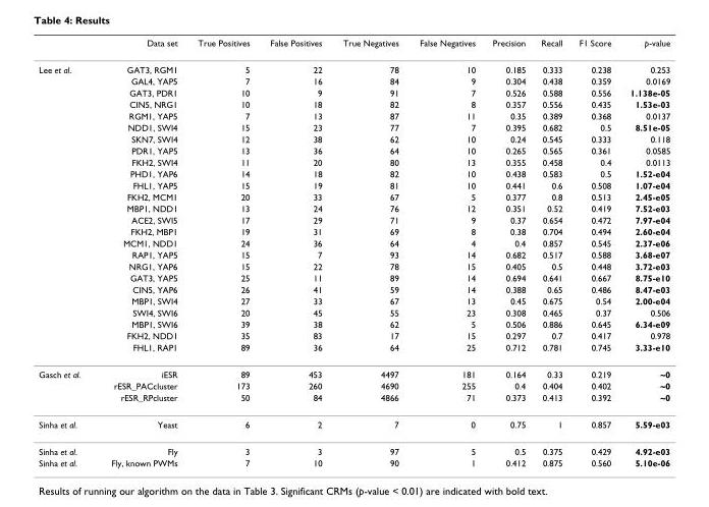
<table><thead><tr><td></td><td>Data set</td><td>True Positives</td><td>False Positives</td><td>True Negatives</td><td>False Negatives</td><td>Precision</td><td>Recall</td><td>F1 Score</td><td>p-value</td></tr></thead><tbody><tr><td rowspan="25">Lee et al.</td><td>GAT3, RGM1</td><td>5</td><td>22</td><td>78</td><td>10</td><td>0.185</td><td>0.333</td><td>0.238</td><td>0.253</td></tr><tr><td>GAL4, YAP5</td><td>7</td><td>16</td><td>84</td><td>9</td><td>0.304</td><td>0.438</td><td>0.359</td><td>0.0169</td></tr><tr><td>GAT3, PDR1</td><td>10</td><td>9</td><td>91</td><td>7</td><td>0.526</td><td>0.588</td><td>0.556</td><td>1.138e-05</td></tr><tr><td>CIN5, NRG1</td><td>10</td><td>18</td><td>82</td><td>8</td><td>0.357</td><td>0.556</td><td>0.435</td><td>1.53e-03</td></tr><tr><td>RGM1, YAP5</td><td>7</td><td>13</td><td>87</td><td>11</td><td>0.35</td><td>0.389</td><td>0.368</td><td>0.0137</td></tr><tr><td>NDD1, SWI4</td><td>15</td><td>23</td><td>77</td><td>7</td><td>0.395</td><td>0.682</td><td>0.5</td><td>8.51e-05</td></tr><tr><td>SKN7, SWI4</td><td>12</td><td>38</td><td>62</td><td>10</td><td>0.24</td><td>0.545</td><td>0.333</td><td>0.118</td></tr><tr><td>PDR1, YAP5</td><td>13</td><td>36</td><td>64</td><td>10</td><td>0.265</td><td>0.565</td><td>0.361</td><td>0.0585</td></tr><tr><td>FKH2, SWI4</td><td>11</td><td>20</td><td>80</td><td>13</td><td>0.355</td><td>0.458</td><td>0.4</td><td>0.0113</td></tr><tr><td>PHD1, YAP6</td><td>14</td><td>18</td><td>82</td><td>10</td><td>0.438</td><td>0.583</td><td>0.5</td><td>1.52-e04</td></tr><tr><td>FHL1, YAP5</td><td>15</td><td>19</td><td>81</td><td>10</td><td>0.441</td><td>0.6</td><td>0.508</td><td>1.07-e04</td></tr><tr><td>FKH2, MCM1</td><td>20</td><td>33</td><td>67</td><td>5</td><td>0.377</td><td>0.8</td><td>0.513</td><td>2.45-e05</td></tr><tr><td>MBP1, NDD1</td><td>13</td><td>24</td><td>76</td><td>12</td><td>0.351</td><td>0.52</td><td>0.419</td><td>7.52-e03</td></tr><tr><td>ACE2, SWI5</td><td>17</td><td>29</td><td>71</td><td>9</td><td>0.37</td><td>0.654</td><td>0.472</td><td>7.97-e04</td></tr><tr><td>FKH2, MBP1</td><td>19</td><td>31</td><td>69</td><td>8</td><td>0.38</td><td>0.704</td><td>0.494</td><td>2.60-e04</td></tr><tr><td>MCM1, NDD1</td><td>24</td><td>36</td><td>64</td><td>4</td><td>0.4</td><td>0.857</td><td>0.545</td><td>2.37-e06</td></tr><tr><td>RAP1, YAP5</td><td>15</td><td>7</td><td>93</td><td>14</td><td>0.682</td><td>0.517</td><td>0.588</td><td>3.68-e07</td></tr><tr><td>NRG1, YAP6</td><td>15</td><td>22</td><td>78</td><td>15</td><td>0.405</td><td>0.5</td><td>0.448</td><td>3.72-e03</td></tr><tr><td>GAT3, YAP5</td><td>25</td><td>11</td><td>89</td><td>14</td><td>0.694</td><td>0.641</td><td>0.667</td><td>8.75-e10</td></tr><tr><td>CIN5, YAP6</td><td>26</td><td>41</td><td>59</td><td>14</td><td>0.388</td><td>0.65</td><td>0.486</td><td>8.47-e03</td></tr><tr><td>MBP1, SWI4</td><td>27</td><td>33</td><td>67</td><td>13</td><td>0.45</td><td>0.675</td><td>0.54</td><td>2.00-e04</td></tr><tr><td>SWI4, SWI6</td><td>20</td><td>45</td><td>55</td><td>23</td><td>0.308</td><td>0.465</td><td>0.37</td><td>0.506</td></tr><tr><td>MBP1, SWI6</td><td>39</td><td>38</td><td>62</td><td>5</td><td>0.506</td><td>0.886</td><td>0.645</td><td>6.34-e09</td></tr><tr><td>FKH2, NDD1</td><td>35</td><td>83</td><td>17</td><td>15</td><td>0.297</td><td>0.7</td><td>0.417</td><td>0.978</td></tr><tr><td>FHL1, RAP1</td><td>89</td><td>36</td><td>64</td><td>25</td><td>0.712</td><td>0.781</td><td>0.745</td><td>3.33-e10</td></tr><tr><td rowspan="3">Gasch et al.</td><td>iESR</td><td>89</td><td>453</td><td>4497</td><td>181</td><td>0.164</td><td>0.33</td><td>0.219</td><td>~0</td></tr><tr><td>rESR_PACcluster</td><td>173</td><td>260</td><td>4690</td><td>255</td><td>0.4</td><td>0.404</td><td>0.402</td><td>~0</td></tr><tr><td>rESR_RPcluster</td><td>50</td><td>84</td><td>4866</td><td>71</td><td>0.373</td><td>0.413</td><td>0.392</td><td>~0</td></tr><tr><td>Sinha et al.</td><td>Yeast</td><td>6</td><td>2</td><td>7</td><td>0</td><td>0.75</td><td>1</td><td>0.857</td><td>5.59-e03</td></tr><tr><td>Sinha et al.</td><td>Fly</td><td>3</td><td>3</td><td>97</td><td>5</td><td>0.5</td><td>0.375</td><td>0.429</td><td>4.92-e03</td></tr><tr><td>Sinha et al.</td><td>Fly, known PWMs</td><td>7</td><td>10</td><td>90</td><td>1</td><td>0.412</td><td>0.875</td><td>0.560</td><td>5.10e-06</td></tr></tbody></table>